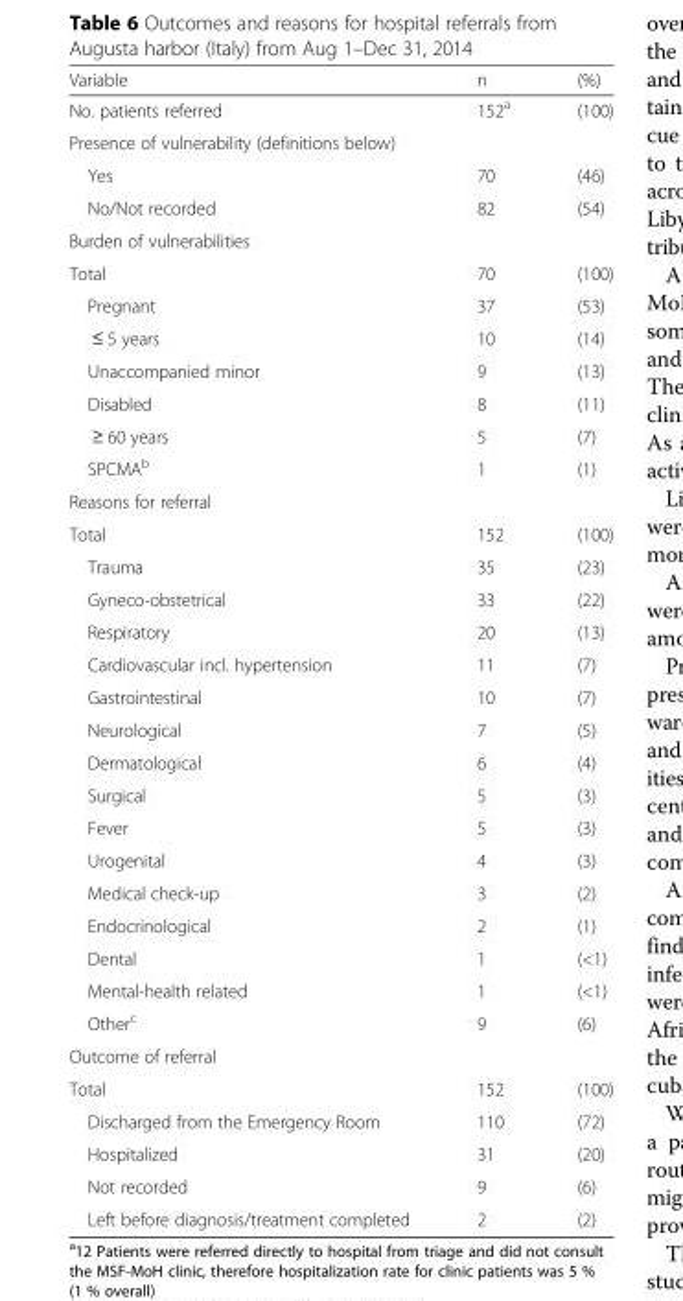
<table><thead><tr><td>Variable</td><td>n</td><td>(%)</td></tr></thead><tbody><tr><td>No. patients referred</td><td>152<sup>a</sup></td><td>(100)</td></tr><tr><td colspan="3">Presence of vulnerability (definitions below)</td></tr><tr><td>Yes</td><td>70</td><td>(46)</td></tr><tr><td>No/Not recorded</td><td>82</td><td>(54)</td></tr><tr><td colspan="3">Burden of vulnerabilities</td></tr><tr><td>Total</td><td>70</td><td>(100)</td></tr><tr><td>Pregnant</td><td>37</td><td>(53)</td></tr><tr><td>≤ 5 years</td><td>10</td><td>(14)</td></tr><tr><td>Unaccompanied minor</td><td>9</td><td>(13)</td></tr><tr><td>Disabled</td><td>8</td><td>(11)</td></tr><tr><td>≥ 60 years</td><td>5</td><td>(7)</td></tr><tr><td>SPCMA<sup>b</sup></td><td>1</td><td>(1)</td></tr><tr><td colspan="3">Reasons for referral</td></tr><tr><td>Total</td><td>152</td><td>(100)</td></tr><tr><td>Trauma</td><td>35</td><td>(23)</td></tr><tr><td>Gyneco-obstetrical</td><td>33</td><td>(22)</td></tr><tr><td>Respiratory</td><td>20</td><td>(13)</td></tr><tr><td>Cardiovascular incl. hypertension</td><td>11</td><td>(7)</td></tr><tr><td>Gastrointestinal</td><td>10</td><td>(7)</td></tr><tr><td>Neurological</td><td>7</td><td>(5)</td></tr><tr><td>Dermatological</td><td>6</td><td>(4)</td></tr><tr><td>Surgical</td><td>5</td><td>(3)</td></tr><tr><td>Fever</td><td>5</td><td>(3)</td></tr><tr><td>Urogenital</td><td>4</td><td>(3)</td></tr><tr><td>Medical check-up</td><td>3</td><td>(2)</td></tr><tr><td>Endocrinological</td><td>2</td><td>(1)</td></tr><tr><td>Dental</td><td>1</td><td>(&lt;1)</td></tr><tr><td>Mental-health related</td><td>1</td><td>(&lt;1)</td></tr><tr><td>Other<sup>c</sup></td><td>9</td><td>(6)</td></tr><tr><td colspan="3">Outcome of referral</td></tr><tr><td>Total</td><td>152</td><td>(100)</td></tr><tr><td>Discharged from the Emergency Room</td><td>110</td><td>(72)</td></tr><tr><td>Hospitalized</td><td>31</td><td>(20)</td></tr><tr><td>Not recorded</td><td>9</td><td>(6)</td></tr><tr><td>Left before diagnosis/treatment completed</td><td>2</td><td>(2)</td></tr></tbody></table>